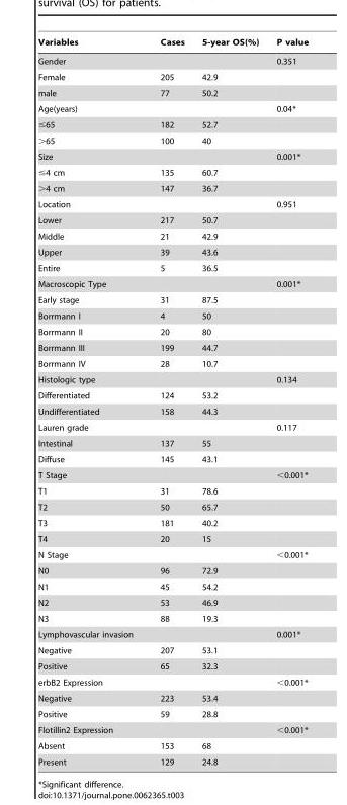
<table><thead><tr><td>Variables</td><td>Cases</td><td>5-year OS(%)</td><td>P value</td></tr></thead><tbody><tr><td>Gender</td><td></td><td></td><td>0.351</td></tr><tr><td>Female</td><td>205</td><td>42.9</td><td></td></tr><tr><td>male</td><td>77</td><td>50.2</td><td></td></tr><tr><td>Age(years)</td><td></td><td></td><td>0.04*</td></tr><tr><td>≤65</td><td>182</td><td>52.7</td><td></td></tr><tr><td>&gt;65</td><td>100</td><td>40</td><td></td></tr><tr><td>Size</td><td></td><td></td><td>0.001*</td></tr><tr><td>≤4 cm</td><td>135</td><td>60.7</td><td></td></tr><tr><td>&gt;4 cm</td><td>147</td><td>36.7</td><td></td></tr><tr><td>Location</td><td></td><td></td><td>0.951</td></tr><tr><td>Lower</td><td>217</td><td>50.7</td><td></td></tr><tr><td>Middle</td><td>21</td><td>42.9</td><td></td></tr><tr><td>Upper</td><td>39</td><td>43.6</td><td></td></tr><tr><td>Entire</td><td>5</td><td>36.5</td><td></td></tr><tr><td>Macroscopic Type</td><td></td><td></td><td>0.001*</td></tr><tr><td>Early stage</td><td>31</td><td>87.5</td><td></td></tr><tr><td>Borrmann I</td><td>4</td><td>50</td><td></td></tr><tr><td>Borrmann II</td><td>20</td><td>80</td><td></td></tr><tr><td>Borrmann III</td><td>199</td><td>44.7</td><td></td></tr><tr><td>Borrmann IV</td><td>28</td><td>10.7</td><td></td></tr><tr><td>Histologic type</td><td></td><td></td><td>0.134</td></tr><tr><td>Differentiated</td><td>124</td><td>53.2</td><td></td></tr><tr><td>Undifferentiated</td><td>158</td><td>44.3</td><td></td></tr><tr><td>Lauren grade</td><td></td><td></td><td>0.117</td></tr><tr><td>Intestinal</td><td>137</td><td>55</td><td></td></tr><tr><td>Diffuse</td><td>145</td><td>43.1</td><td></td></tr><tr><td>T Stage</td><td></td><td></td><td>&lt;0.001*</td></tr><tr><td>T1</td><td>31</td><td>78.6</td><td></td></tr><tr><td>T2</td><td>50</td><td>65.7</td><td></td></tr><tr><td>T3</td><td>181</td><td>40.2</td><td></td></tr><tr><td>T4</td><td>20</td><td>15</td><td></td></tr><tr><td>N Stage</td><td></td><td></td><td>&lt;0.001*</td></tr><tr><td>N0</td><td>96</td><td>72.9</td><td></td></tr><tr><td>N1</td><td>45</td><td>54.2</td><td></td></tr><tr><td>N2</td><td>53</td><td>46.9</td><td></td></tr><tr><td>N3</td><td>88</td><td>19.3</td><td></td></tr><tr><td>Lymphovascular invasion</td><td></td><td></td><td>0.001*</td></tr><tr><td>Negative</td><td>207</td><td>53.1</td><td></td></tr><tr><td>Positive</td><td>65</td><td>32.3</td><td></td></tr><tr><td>erbB2 Expression</td><td></td><td></td><td>&lt;0.001*</td></tr><tr><td>Negative</td><td>223</td><td>53.4</td><td></td></tr><tr><td>Positive</td><td>59</td><td>28.8</td><td></td></tr><tr><td>Flotillin2 Expression</td><td></td><td></td><td>&lt;0.001*</td></tr><tr><td>Absent</td><td>153</td><td>68</td><td></td></tr><tr><td>Present</td><td>129</td><td>24.8</td><td></td></tr></tbody></table>